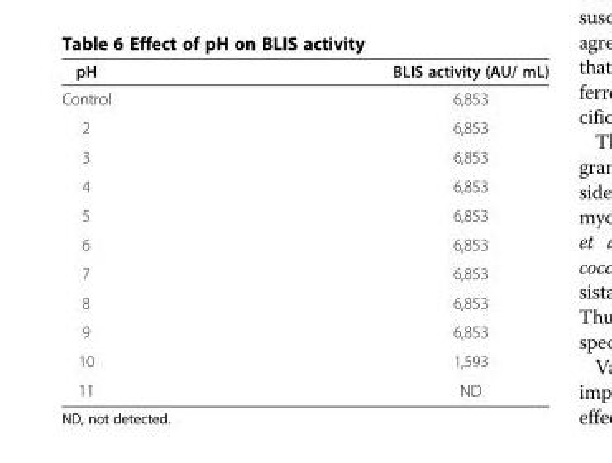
<table><thead><tr><td>pH</td><td>BLIS activity (AU/ mL)</td></tr></thead><tbody><tr><td>Control</td><td>6,853</td></tr><tr><td>2</td><td>6,853</td></tr><tr><td>3</td><td>6,853</td></tr><tr><td>4</td><td>6,853</td></tr><tr><td>5</td><td>6,853</td></tr><tr><td>6</td><td>6,853</td></tr><tr><td>7</td><td>6,853</td></tr><tr><td>8</td><td>6,853</td></tr><tr><td>9</td><td>6,853</td></tr><tr><td>10</td><td>1,593</td></tr><tr><td>11</td><td>ND</td></tr></tbody></table>